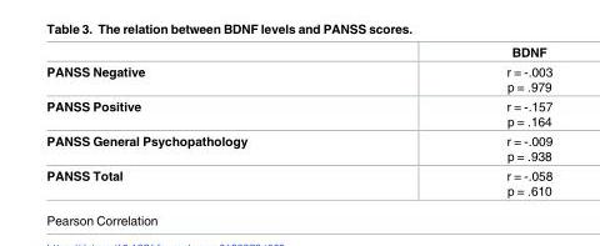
<table><thead><tr><td></td><td>BDNF</td></tr></thead><tbody><tr><td>PANSS Negative</td><td>r = -.003 p = .979</td></tr><tr><td>PANSS Positive</td><td>r = -.157 p = .164</td></tr><tr><td>PANSS General Psychopathology</td><td>r = -.009 p = .938</td></tr><tr><td>PANSS Total</td><td>r = -.058 p = .610</td></tr></tbody></table>